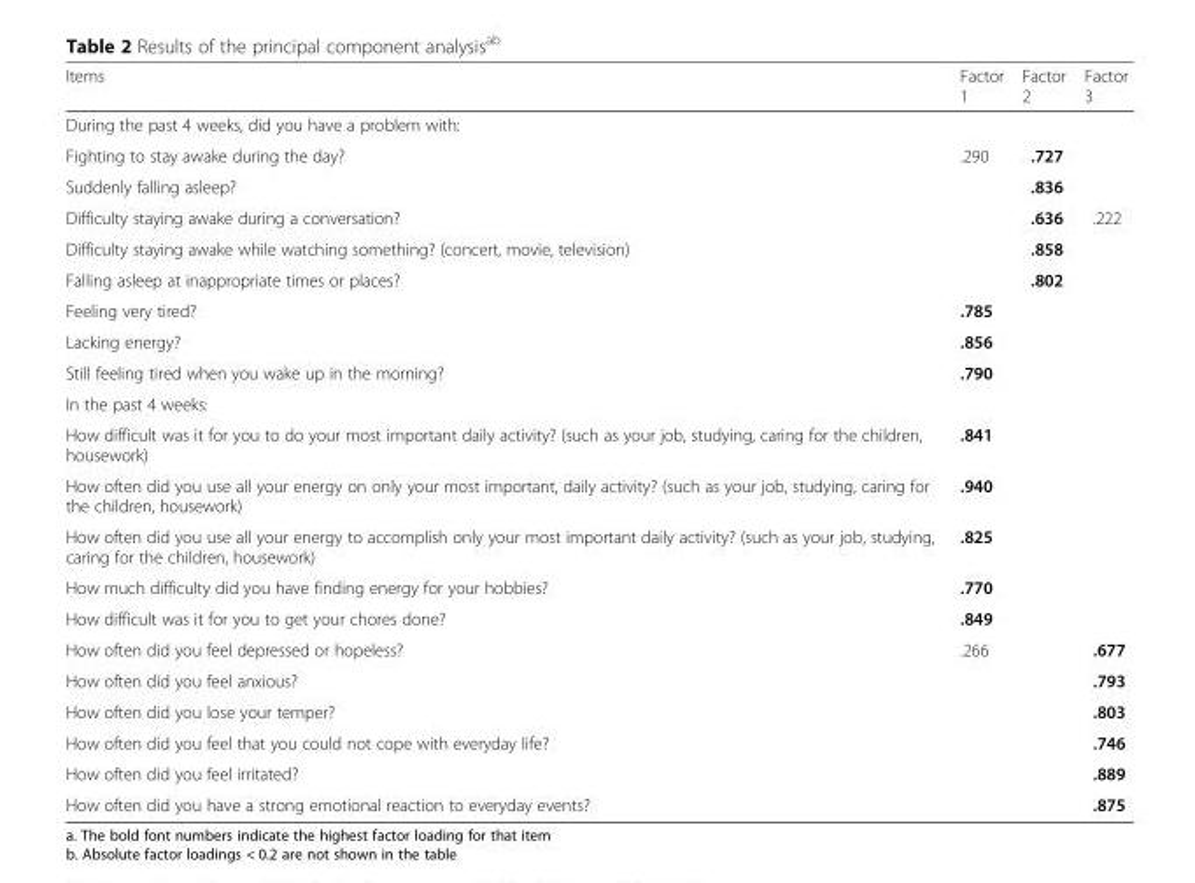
<table><thead><tr><td>Items</td><td>Factor 1</td><td>Factor 2</td><td>Factor 3</td></tr></thead><tbody><tr><td colspan="4">During the past 4 weeks, did you have a problem with:</td></tr><tr><td>Fighting to stay awake during the day?</td><td>.290</td><td>.727</td><td></td></tr><tr><td>Suddenly falling asleep?</td><td></td><td>.836</td><td></td></tr><tr><td>Difficulty staying awake during a conversation?</td><td></td><td>.636</td><td>.222</td></tr><tr><td>Difficulty staying awake while watching something? (concert, movie, television)</td><td></td><td>.858</td><td></td></tr><tr><td>Falling asleep at inappropriate times or places?</td><td></td><td>.802</td><td></td></tr><tr><td>Feeling very tired?</td><td>.785</td><td></td><td></td></tr><tr><td>Lacking energy?</td><td>.856</td><td></td><td></td></tr><tr><td>Still feeling tired when you wake up in the morning?</td><td>.790</td><td></td><td></td></tr><tr><td colspan="4">In the past 4 weeks:</td></tr><tr><td>How difficult was it for you to do your most important daily activity? (such as your job, studying, caring for the children, housework)</td><td>.841</td><td></td><td></td></tr><tr><td>How often did you use all your energy on only your most important, daily activity? (such as your job, studying, caring for the children, housework)</td><td>.940</td><td></td><td></td></tr><tr><td>How often did you use all your energy to accomplish only your most important daily activity? (such as your job, studying, caring for the children, housework)</td><td>.825</td><td></td><td></td></tr><tr><td>How much difficulty did you have finding energy for your hobbies?</td><td>.770</td><td></td><td></td></tr><tr><td>How difficult was it for you to get your chores done?</td><td>.849</td><td></td><td></td></tr><tr><td>How often did you feel depressed or hopeless?</td><td>.266</td><td></td><td>.677</td></tr><tr><td>How often did you feel anxious?</td><td></td><td></td><td>.793</td></tr><tr><td>How often did you lose your temper?</td><td></td><td></td><td>.803</td></tr><tr><td>How often did you feel that you could not cope with everyday life?</td><td></td><td></td><td>.746</td></tr><tr><td>How often did you feel irritated?</td><td></td><td></td><td>.889</td></tr><tr><td>How often did you have a strong emotional reaction to everyday events?</td><td></td><td></td><td>.875</td></tr></tbody></table>